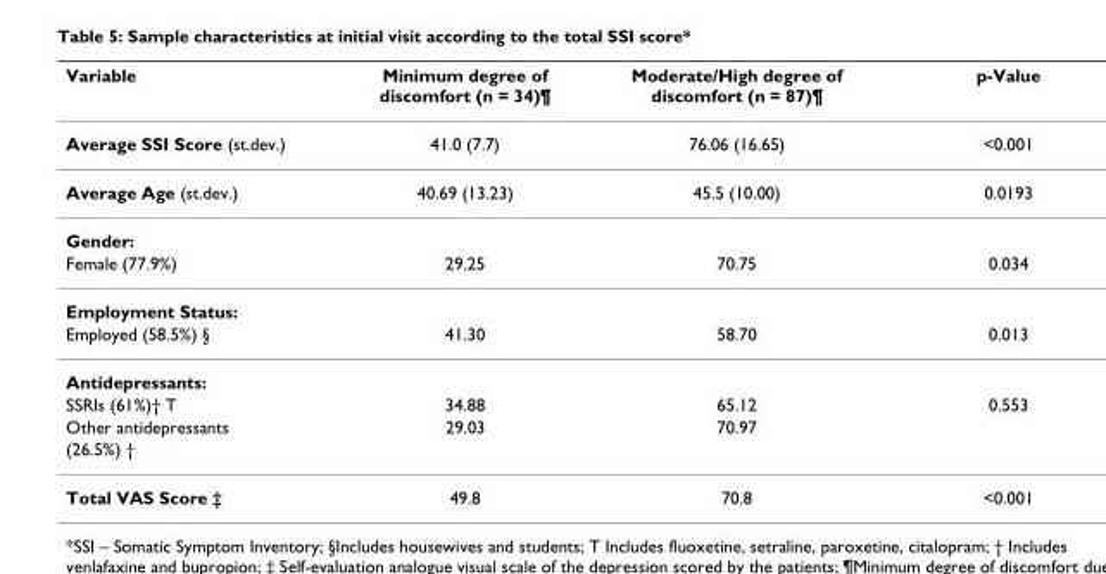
<table><thead><tr><td>Variable</td><td>Minimum degree of discomfort (n = 34)¶</td><td>Moderate/High degree of discomfort (n = 87)¶</td><td>p-Value</td></tr></thead><tbody><tr><td>Average SSI Score (st.dev.)</td><td>41.0 (7.7)</td><td>76.06 (16.65)</td><td>&lt;0.001</td></tr><tr><td>Average Age (st.dev.)</td><td>40.69 (13.23)</td><td>45.5 (10.00)</td><td>0.0193</td></tr><tr><td colspan="4">Gender:</td></tr><tr><td>Female (77.9%)</td><td>29.25</td><td>70.75</td><td>0.034</td></tr><tr><td colspan="4">Employment Status:</td></tr><tr><td>Employed (58.5%) §</td><td>41.30</td><td>58.70</td><td>0.013</td></tr><tr><td colspan="4">Antidepressants:</td></tr><tr><td>SSRIs (61%)† T</td><td>34.88</td><td>65.12</td><td>0.553</td></tr><tr><td>Other antidepressants</td><td>29.03</td><td>70.97</td><td></td></tr><tr><td colspan="4">(26.5%) †</td></tr><tr><td>Total VAS Score ‡</td><td>49.8</td><td>70.8</td><td>&lt;0.001</td></tr></tbody></table>